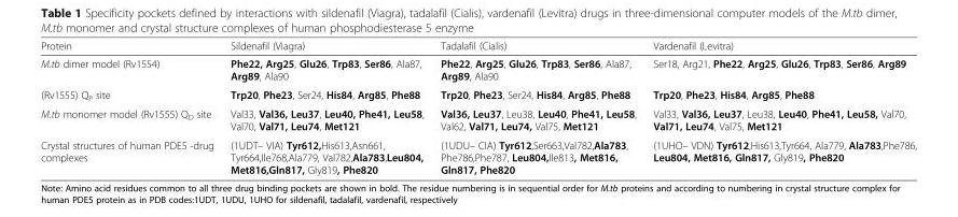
<table><thead><tr><td>Protein</td><td>Sildenafil (Viagra)</td><td>Tadalafil (Cialis)</td><td>Vardenafil (Levitra)</td></tr></thead><tbody><tr><td>M.tb dimer model (Rv1554)</td><td>Phe22, Arg25, Glu26, Trp83, Ser86, Ala87, Arg89, Ala90</td><td>Phe22, Arg25, Glu26, Trp83, Ser86, Ala87, Arg89, Ala90</td><td>Ser18, Arg21, Phe22, Arg25, Glu26, Trp83, Ser86, Arg89</td></tr><tr><td>(Rv1555) Q<sub>P</sub> site</td><td>Trp20, Phe23, Ser24, His84, Arg85, Phe88</td><td>Trp20, Phe23, Ser24, His84, Arg85, Phe88</td><td>Trp20, Phe23, His84, Arg85, Phe88</td></tr><tr><td>M.tb monomer model (Rv1555) Q<sub>D</sub> site</td><td>Val33, Val36, Leu37, Leu40, Phe41, Leu58, Val70, Val71, Leu74, Met121</td><td>Val36, Leu37, Leu38, Leu40, Phe41, Leu58, Val62, Val71, Leu74, Val75, Met121</td><td>Val33, Val36, Leu37, Leu38, Leu40, Phe41, Leu58, Val70, Val71, Leu74, Val75, Met121</td></tr><tr><td>Crystal structures of human PDE5 -drug complexes</td><td>(1UDT– VIA) Tyr612,His613,Asn661, Tyr664,Ile768,Ala779, Val782,Ala783,Leu804, Met816,Gln817, Gly819, Phe820</td><td>(1UDU– CIA) Tyr612,Ser663,Val782,Ala783, Phe786,Phe787, Leu804,Ile813, Met816, Gln817, Phe820</td><td>(1UHO– VDN) Tyr612,His613,Tyr664, Ala779, Ala783,Phe786, Leu804, Met816, Gln817, Gly819, Phe820</td></tr></tbody></table>